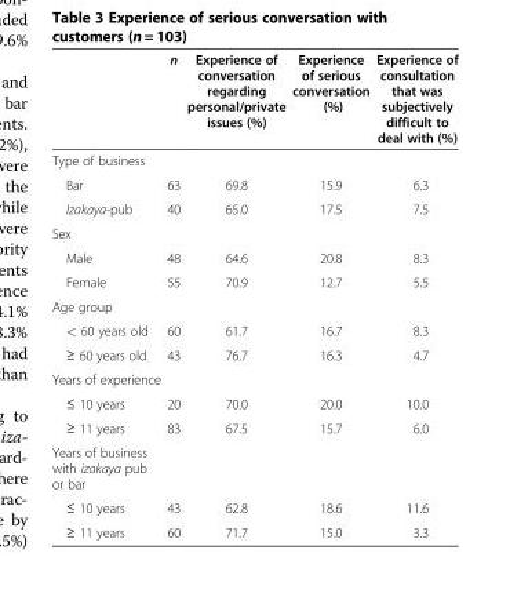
<table><thead><tr><td></td><td>n</td><td>Experience of conversation regarding personal/private issues (%)</td><td>Experience of serious conversation (%)</td><td>Experience of consultation that was subjectively difficult to deal with (%)</td></tr></thead><tbody><tr><td colspan="5">Type of business</td></tr><tr><td>Bar</td><td>63</td><td>69.8</td><td>15.9</td><td>6.3</td></tr><tr><td>Izakaya-pub</td><td>40</td><td>65.0</td><td>17.5</td><td>7.5</td></tr><tr><td colspan="5">Sex</td></tr><tr><td>Male</td><td>48</td><td>64.6</td><td>20.8</td><td>8.3</td></tr><tr><td>Female</td><td>55</td><td>70.9</td><td>12.7</td><td>5.5</td></tr><tr><td colspan="5">Age group</td></tr><tr><td>&lt; 60 years old</td><td>60</td><td>61.7</td><td>16.7</td><td>8.3</td></tr><tr><td>≥ 60 years old</td><td>43</td><td>76.7</td><td>16.3</td><td>4.7</td></tr><tr><td colspan="5">Years of experience</td></tr><tr><td>≤ 10 years</td><td>20</td><td>70.0</td><td>20.0</td><td>10.0</td></tr><tr><td>≥ 11 years</td><td>83</td><td>67.5</td><td>15.7</td><td>6.0</td></tr><tr><td colspan="5">Years of business with izakaya pub or bar</td></tr><tr><td>≤ 10 years</td><td>43</td><td>62.8</td><td>18.6</td><td>11.6</td></tr><tr><td>≥ 11 years</td><td>60</td><td>71.7</td><td>15.0</td><td>3.3</td></tr></tbody></table>